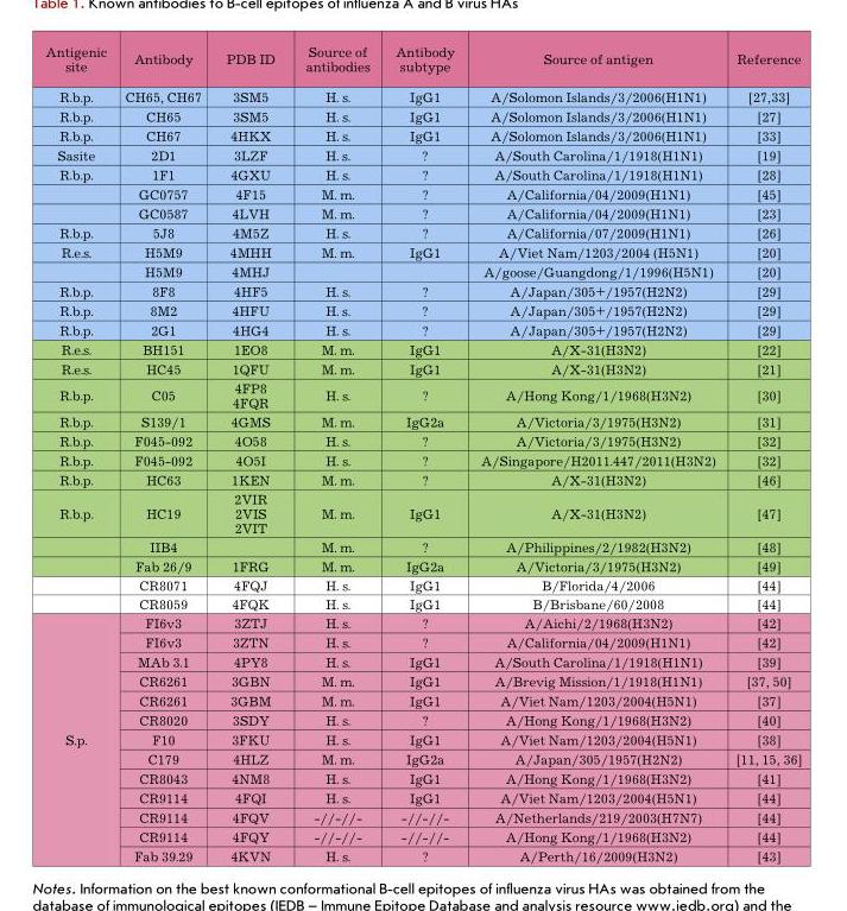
<table><thead><tr><td>Antigenic site</td><td>Antibody</td><td>PDB ID</td><td>Source of antibodies</td><td>Antibody subtype</td><td>Source of antigen</td><td>Reference</td></tr></thead><tbody><tr><td>R.b.p.</td><td>CH65, CH67</td><td>3SM5</td><td>H. s.</td><td>IgG1</td><td>A/Solomon Islands/3/2006(H1N1)</td><td>[27,33]</td></tr><tr><td>R.b.p.</td><td>CH65</td><td>3SM5</td><td>H. s.</td><td>IgG1</td><td>A/Solomon Islands/3/2006(H1N1)</td><td>[27]</td></tr><tr><td>R.b.p.</td><td>CH67</td><td>4HKX</td><td>H. s.</td><td>IgG1</td><td>A/Solomon Islands/3/2006(H1N1)</td><td>[33]</td></tr><tr><td>Sasite</td><td>2D1</td><td>3LZF</td><td>H. s.</td><td>?</td><td>A/South Carolina/1/1918(H1N1)</td><td>[19]</td></tr><tr><td rowspan="3">R.b.p.</td><td>1F1</td><td>4GXU</td><td>H. s.</td><td>?</td><td>A/South Carolina/1/1918(H1N1)</td><td>[28]</td></tr><tr><td>GC0757</td><td>4F15</td><td>M. m.</td><td>?</td><td>A/California/04/2009(H1N1)</td><td>[45]</td></tr><tr><td>GC0587</td><td>4LVH</td><td>M. m.</td><td>?</td><td>A/California/04/2009(H1N1)</td><td>[23]</td></tr><tr><td>R.b.p.</td><td>5J8</td><td>4M5Z</td><td>H. s.</td><td>?</td><td>A/California/07/2009(H1N1)</td><td>[26]</td></tr><tr><td rowspan="2">R.e.s.</td><td>H5M9</td><td>4MHH</td><td>M. m.</td><td>IgG1</td><td>A/Viet Nam/1203/2004 (H5N1)</td><td>[20]</td></tr><tr><td>H5M9</td><td>4MHJ</td><td></td><td></td><td>A/goose/Guangdong/1/1996(H5N1)</td><td>[20]</td></tr><tr><td>R.b.p.</td><td>8F8</td><td>4HF5</td><td>H. s.</td><td>?</td><td>A/Japan/305+/1957(H2N2)</td><td>[29]</td></tr><tr><td>R.b.p.</td><td>8M2</td><td>4HFU</td><td>H. s.</td><td>?</td><td>A/Japan/305+/1957(H2N2)</td><td>[29]</td></tr><tr><td>R.b.p.</td><td>2G1</td><td>4HG4</td><td>H. s.</td><td>?</td><td>A/Japan/305+/1957(H2N2)</td><td>[29]</td></tr><tr><td>R.e.s.</td><td>BH151</td><td>1EO8</td><td>M. m.</td><td>IgG1</td><td>A/X-31(H3N2)</td><td>[22]</td></tr><tr><td>R.e.s.</td><td>HC45</td><td>1QFU</td><td>M. m.</td><td>IgG1</td><td>A/X-31(H3N2)</td><td>[21]</td></tr><tr><td>R.b.p.</td><td>C05</td><td>4FP8 4FQR</td><td>H. s.</td><td>?</td><td>A/Hong Kong/1/1968(H3N2)</td><td>[30]</td></tr><tr><td>R.b.p.</td><td>S139/1</td><td>4GMS</td><td>M. m.</td><td>IgG2a</td><td>A/Victoria/3/1975(H3N2)</td><td>[31]</td></tr><tr><td>R.b.p.</td><td>F045-092</td><td>4O58</td><td>H. s.</td><td>?</td><td>A/Victoria/3/1975(H3N2)</td><td>[32]</td></tr><tr><td>R.b.p.</td><td>F045-092</td><td>4O5I</td><td>H. s.</td><td>?</td><td>A/Singapore/H2011.447/2011(H3N2)</td><td>[32]</td></tr><tr><td>R.b.p.</td><td>HC63</td><td>1KEN</td><td>M. m.</td><td>?</td><td>A/X-31(H3N2)</td><td>[46]</td></tr><tr><td rowspan="5">R.b.p.</td><td>HC19</td><td>2VIR 2VIS 2VIT</td><td>M. m.</td><td>IgG1</td><td>A/X-31(H3N2)</td><td>[47]</td></tr><tr><td>IIB4</td><td></td><td>M. m.</td><td>?</td><td>A/Philippines/2/1982(H3N2)</td><td>[48]</td></tr><tr><td>Fab 26/9</td><td>1FRG</td><td>M. m.</td><td>IgG2a</td><td>A/Victoria/3/1975(H3N2)</td><td>[49]</td></tr><tr><td>CR8071</td><td>4FQJ</td><td>H. s.</td><td>IgG1</td><td>B/Florida/4/2006</td><td>[44]</td></tr><tr><td>CR8059</td><td>4FQK</td><td>H. s.</td><td>IgG1</td><td>B/Brisbane/60/2008</td><td>[44]</td></tr><tr><td rowspan="13">S.p.</td><td>FI6v3</td><td>3ZTJ</td><td>H. s.</td><td>?</td><td>A/Aichi/2/1968(H3N2)</td><td>[42]</td></tr><tr><td>FI6v3</td><td>3ZTN</td><td>H. s.</td><td>?</td><td>A/California/04/2009(H1N1)</td><td>[42]</td></tr><tr><td>MAb 3.1</td><td>4PY8</td><td>H. s.</td><td>IgG1</td><td>A/South Carolina/1/1918(H1N1)</td><td>[39]</td></tr><tr><td>CR6261</td><td>3GBN</td><td>M. m.</td><td>IgG1</td><td>A/Brevig Mission/1/1918(H1N1)</td><td>[37, 50]</td></tr><tr><td>CR6261</td><td>3GBM</td><td>M. m.</td><td>IgG1</td><td>A/Viet Nam/1203/2004(H5N1)</td><td>[37]</td></tr><tr><td>CR8020</td><td>3SDY</td><td>H. s.</td><td>?</td><td>A/Hong Kong/1/1968(H3N2)</td><td>[40]</td></tr><tr><td>F10</td><td>3FKU</td><td>H. s.</td><td>IgG1</td><td>A/Viet Nam/1203/2004(H5N1)</td><td>[38]</td></tr><tr><td>C179</td><td>4HLZ</td><td>M. m.</td><td>IgG2a</td><td>A/Japan/305/1957(H2N2)</td><td>[11, 15, 36]</td></tr><tr><td>CR8043</td><td>4NM8</td><td>H. s.</td><td>IgG1</td><td>A/Hong Kong/1/1968(H3N2)</td><td>[41]</td></tr><tr><td>CR9114</td><td>4FQI</td><td>H. s.</td><td>IgG1</td><td>A/Viet Nam/1203/2004(H5N1)</td><td>[44]</td></tr><tr><td>CR9114</td><td>4FQV</td><td>-//-//-</td><td>-//-//-</td><td>A/Netherlands/219/2003(H7N7)</td><td>[44]</td></tr><tr><td>CR9114</td><td>4FQY</td><td>-//-//-</td><td>-//-//-</td><td>A/Hong Kong/1/1968(H3N2)</td><td>[44]</td></tr><tr><td>Fab 39.29</td><td>4KVN</td><td>H. s.</td><td>?</td><td>A/Perth/16/2009(H3N2)</td><td>[43]</td></tr></tbody></table>